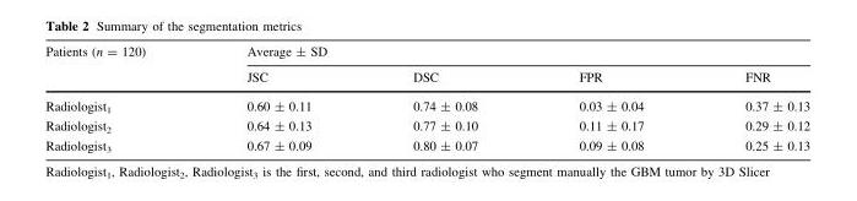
<table><thead><tr><td rowspan="2">Patients (n = 120)</td><td colspan="4">Average ± SD</td></tr><tr><td>JSC</td><td>DSC</td><td>FPR</td><td>FNR</td></tr></thead><tbody><tr><td>Radiologist<sub>1</sub></td><td>0.60 ± 0.11</td><td>0.74 ± 0.08</td><td>0.03 ± 0.04</td><td>0.37 ± 0.13</td></tr><tr><td>Radiologist<sub>2</sub></td><td>0.64 ± 0.13</td><td>0.77 ± 0.10</td><td>0.11 ± 0.17</td><td>0.29 ± 0.12</td></tr><tr><td>Radiologist<sub>3</sub></td><td>0.67 ± 0.09</td><td>0.80 ± 0.07</td><td>0.09 ± 0.08</td><td>0.25 ± 0.13</td></tr></tbody></table>